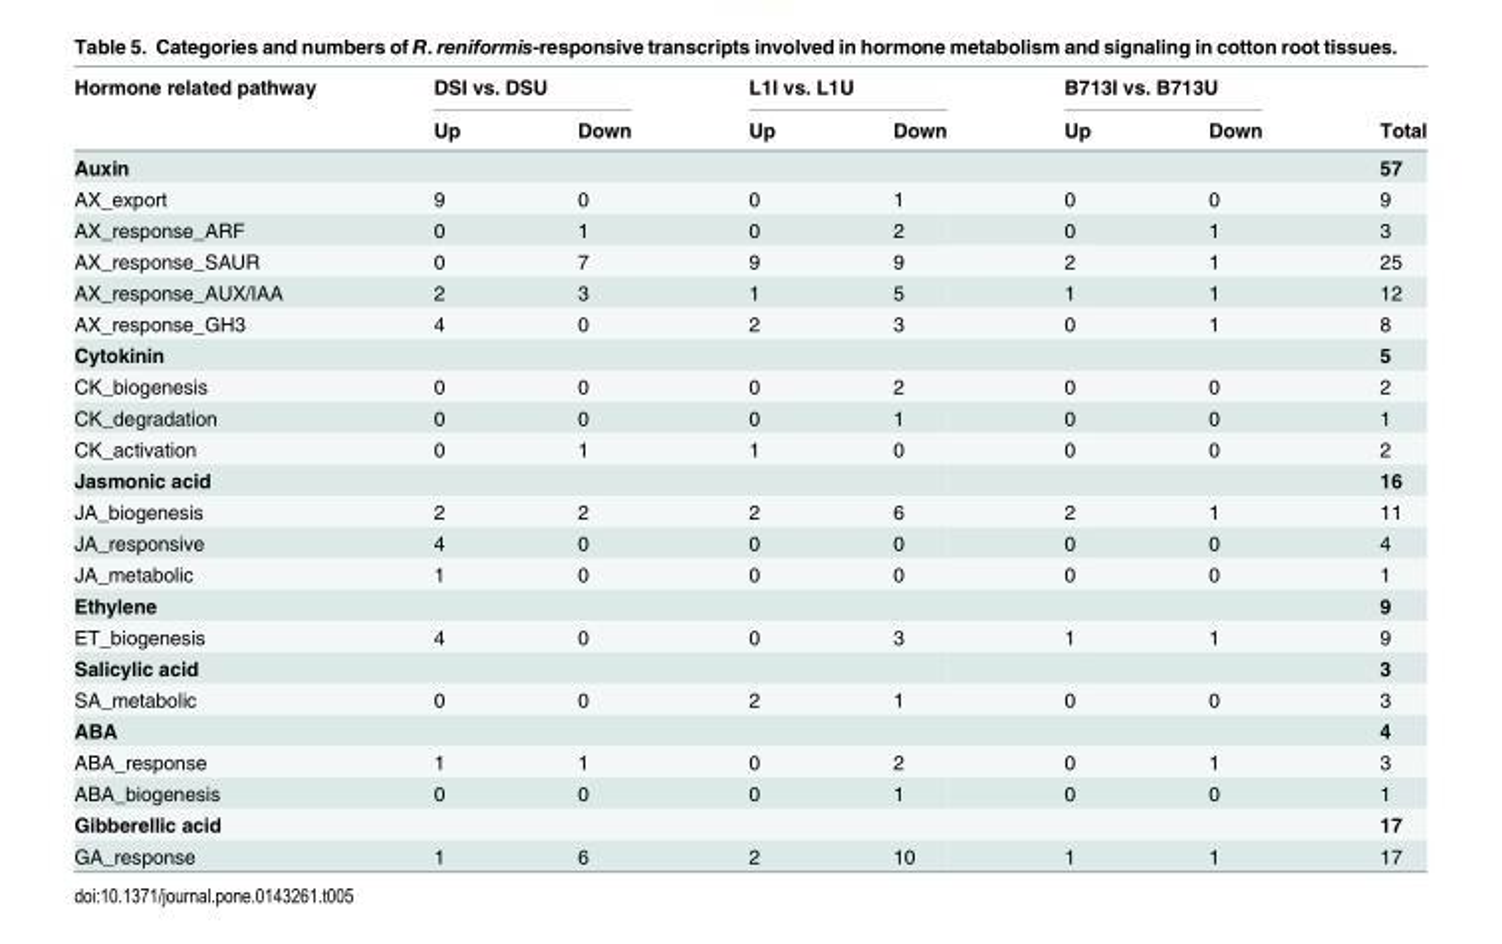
<table><thead><tr><td rowspan="2">Hormone related pathway</td><td colspan="2">DSI vs. DSU</td><td colspan="2">L1I vs. L1U</td><td colspan="2">B713I vs. B713U</td><td rowspan="2">Total</td></tr><tr><td>Up</td><td>Down</td><td>Up</td><td>Down</td><td>Up</td><td>Down</td></tr></thead><tbody><tr><td colspan="7">Auxin</td><td>57</td></tr><tr><td>AX_export</td><td>9</td><td>0</td><td>0</td><td>1</td><td>0</td><td>0</td><td>9</td></tr><tr><td>AX_response_ARF</td><td>0</td><td>1</td><td>0</td><td>2</td><td>0</td><td>1</td><td>3</td></tr><tr><td>AX_response_SAUR</td><td>0</td><td>7</td><td>9</td><td>9</td><td>2</td><td>1</td><td>25</td></tr><tr><td>AX_response_AUX/IAA</td><td>2</td><td>3</td><td>1</td><td>5</td><td>1</td><td>1</td><td>12</td></tr><tr><td>AX_response_GH3</td><td>4</td><td>0</td><td>2</td><td>3</td><td>0</td><td>1</td><td>8</td></tr><tr><td colspan="7">Cytokinin</td><td>5</td></tr><tr><td>CK_biogenesis</td><td>0</td><td>0</td><td>0</td><td>2</td><td>0</td><td>0</td><td>2</td></tr><tr><td>CK_degradation</td><td>0</td><td>0</td><td>0</td><td>1</td><td>0</td><td>0</td><td>1</td></tr><tr><td>CK_activation</td><td>0</td><td>1</td><td>1</td><td>0</td><td>0</td><td>0</td><td>2</td></tr><tr><td>Jasmonic acid</td><td></td><td></td><td></td><td></td><td></td><td></td><td>16</td></tr><tr><td>JA_biogenesis</td><td>2</td><td>2</td><td>2</td><td>6</td><td>2</td><td>1</td><td>11</td></tr><tr><td>JA_responsive</td><td>4</td><td>0</td><td>0</td><td>0</td><td>0</td><td>0</td><td>4</td></tr><tr><td>JA_metabolic</td><td>1</td><td>0</td><td>0</td><td>0</td><td>0</td><td>0</td><td>1</td></tr><tr><td colspan="7">Ethylene</td><td>9</td></tr><tr><td>ET_biogenesis</td><td>4</td><td>0</td><td>0</td><td>3</td><td>1</td><td>1</td><td>9</td></tr><tr><td>Salicylic acid</td><td></td><td></td><td></td><td></td><td></td><td></td><td>3</td></tr><tr><td>SA_metabolic</td><td>0</td><td>0</td><td>2</td><td>1</td><td>0</td><td>0</td><td>3</td></tr><tr><td colspan="7">ABA</td><td>4</td></tr><tr><td>ABA_response</td><td>1</td><td>1</td><td>0</td><td>2</td><td>0</td><td>1</td><td>3</td></tr><tr><td>ABA_biogenesis</td><td>0</td><td>0</td><td>0</td><td>1</td><td>0</td><td>0</td><td>1</td></tr><tr><td>Gibberellic acid</td><td></td><td></td><td></td><td></td><td></td><td></td><td>17</td></tr><tr><td>GA_response</td><td>1</td><td>6</td><td>2</td><td>10</td><td>1</td><td>1</td><td>17</td></tr></tbody></table>